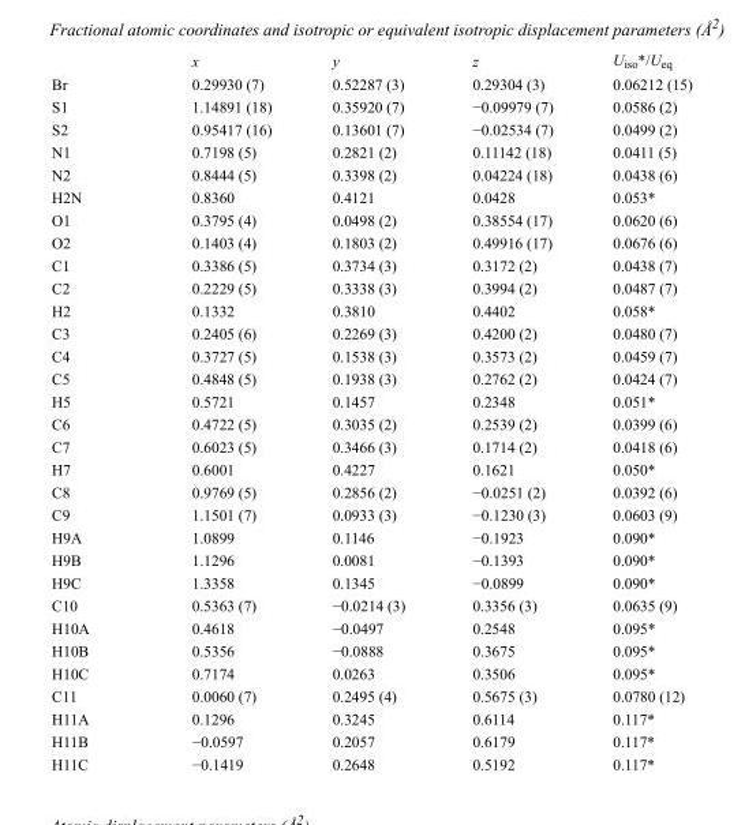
<table><thead><tr><td></td><td>x</td><td>y</td><td>z</td><td>U<sub>iso</sub>*/U<sub>eq</sub></td></tr></thead><tbody><tr><td>Br</td><td>0.29930 (7)</td><td>0.52287 (3)</td><td>0.29304 (3)</td><td>0.06212 (15)</td></tr><tr><td>S1</td><td>1.14891 (18)</td><td>0.35920 (7)</td><td>−0.09979 (7)</td><td>0.0586 (2)</td></tr><tr><td>S2</td><td>0.95417 (16)</td><td>0.13601 (7)</td><td>−0.02534 (7)</td><td>0.0499 (2)</td></tr><tr><td>N1</td><td>0.7198 (5)</td><td>0.2821 (2)</td><td>0.11142 (18)</td><td>0.0411 (5)</td></tr><tr><td>N2</td><td>0.8444 (5)</td><td>0.3398 (2)</td><td>0.04224 (18)</td><td>0.0438 (6)</td></tr><tr><td>H2N</td><td>0.8360</td><td>0.4121</td><td>0.0428</td><td>0.053*</td></tr><tr><td>O1</td><td>0.3795 (4)</td><td>0.0498 (2)</td><td>0.38554 (17)</td><td>0.0620 (6)</td></tr><tr><td>O2</td><td>0.1403 (4)</td><td>0.1803 (2)</td><td>0.49916 (17)</td><td>0.0676 (6)</td></tr><tr><td>C1</td><td>0.3386 (5)</td><td>0.3734 (3)</td><td>0.3172 (2)</td><td>0.0438 (7)</td></tr><tr><td>C2</td><td>0.2229 (5)</td><td>0.3338 (3)</td><td>0.3994 (2)</td><td>0.0487 (7)</td></tr><tr><td>H2</td><td>0.1332</td><td>0.3810</td><td>0.4402</td><td>0.058*</td></tr><tr><td>C3</td><td>0.2405 (6)</td><td>0.2269 (3)</td><td>0.4200 (2)</td><td>0.0480 (7)</td></tr><tr><td>C4</td><td>0.3727 (5)</td><td>0.1538 (3)</td><td>0.3573 (2)</td><td>0.0459 (7)</td></tr><tr><td>C5</td><td>0.4848 (5)</td><td>0.1938 (3)</td><td>0.2762 (2)</td><td>0.0424 (7)</td></tr><tr><td>H5</td><td>0.5721</td><td>0.1457</td><td>0.2348</td><td>0.051*</td></tr><tr><td>C6</td><td>0.4722 (5)</td><td>0.3035 (2)</td><td>0.2539 (2)</td><td>0.0399 (6)</td></tr><tr><td>C7</td><td>0.6023 (5)</td><td>0.3466 (3)</td><td>0.1714 (2)</td><td>0.0418 (6)</td></tr><tr><td>H7</td><td>0.6001</td><td>0.4227</td><td>0.1621</td><td>0.050*</td></tr><tr><td>C8</td><td>0.9769 (5)</td><td>0.2856 (2)</td><td>−0.0251 (2)</td><td>0.0392 (6)</td></tr><tr><td>C9</td><td>1.1501 (7)</td><td>0.0933 (3)</td><td>−0.1230 (3)</td><td>0.0603 (9)</td></tr><tr><td>H9A</td><td>1.0899</td><td>0.1146</td><td>−0.1923</td><td>0.090*</td></tr><tr><td>H9B</td><td>1.1296</td><td>0.0081</td><td>−0.1393</td><td>0.090*</td></tr><tr><td>H9C</td><td>1.3358</td><td>0.1345</td><td>−0.0899</td><td>0.090*</td></tr><tr><td>C10</td><td>0.5363 (7)</td><td>−0.0214 (3)</td><td>0.3356 (3)</td><td>0.0635 (9)</td></tr><tr><td>H10A</td><td>0.4618</td><td>−0.0497</td><td>0.2548</td><td>0.095*</td></tr><tr><td>H10B</td><td>0.5356</td><td>−0.0888</td><td>0.3675</td><td>0.095*</td></tr><tr><td>H10C</td><td>0.7174</td><td>0.0263</td><td>0.3506</td><td>0.095*</td></tr><tr><td>C11</td><td>0.0060 (7)</td><td>0.2495 (4)</td><td>0.5675 (3)</td><td>0.0780 (12)</td></tr><tr><td>H11A</td><td>0.1296</td><td>0.3245</td><td>0.6114</td><td>0.117*</td></tr><tr><td>H11B</td><td>−0.0597</td><td>0.2057</td><td>0.6179</td><td>0.117*</td></tr><tr><td>H11C</td><td>−0.1419</td><td>0.2648</td><td>0.5192</td><td>0.117*</td></tr></tbody></table>